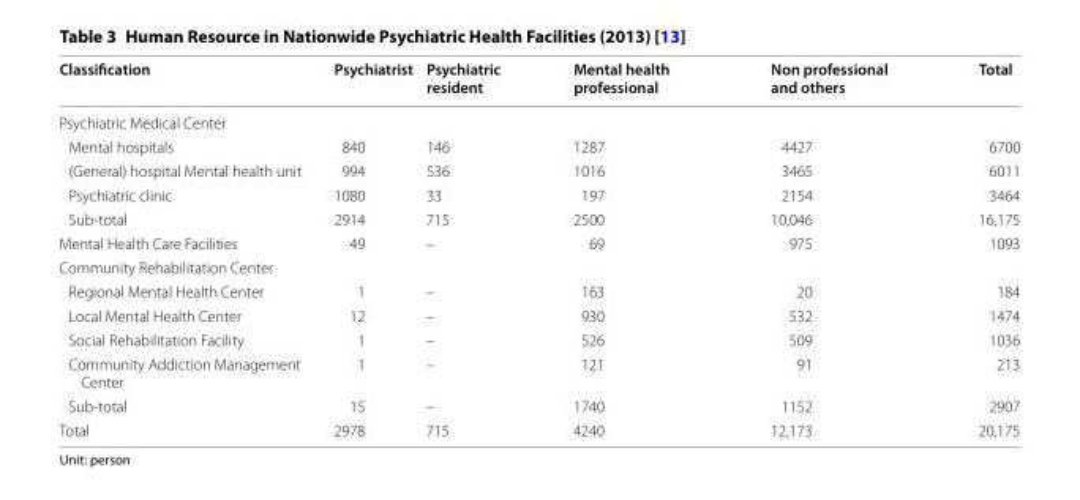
<table><thead><tr><td>Classification</td><td>Psychiatrist</td><td>Psychiatric resident</td><td>Mental health professional</td><td>Non professional and others</td><td>Total</td></tr></thead><tbody><tr><td colspan="6">Psychiatric Medical Center</td></tr><tr><td>Mental hospitals</td><td>840</td><td>146</td><td>1287</td><td>4427</td><td>6700</td></tr><tr><td>(General) hospital Mental health unit</td><td>994</td><td>536</td><td>1016</td><td>3465</td><td>6011</td></tr><tr><td>Psychiatric clinic</td><td>1080</td><td>33</td><td>197</td><td>2154</td><td>3464</td></tr><tr><td>Sub‑total</td><td>2914</td><td>715</td><td>2500</td><td>10,046</td><td>16,175</td></tr><tr><td>Mental Health Care Facilities</td><td>49</td><td>–</td><td>69</td><td>975</td><td>1093</td></tr><tr><td colspan="6">Community Rehabilitation Center</td></tr><tr><td>Regional Mental Health Center</td><td>1</td><td>–</td><td>163</td><td>20</td><td>184</td></tr><tr><td>Local Mental Health Center</td><td>12</td><td>–</td><td>930</td><td>532</td><td>1474</td></tr><tr><td>Social Rehabilitation Facility</td><td>1</td><td>–</td><td>526</td><td>509</td><td>1036</td></tr><tr><td>Community Addiction Management Center</td><td>1</td><td>–</td><td>121</td><td>91</td><td>213</td></tr><tr><td>Sub‑total</td><td>15</td><td>–</td><td>1740</td><td>1152</td><td>2907</td></tr><tr><td>Total</td><td>2978</td><td>715</td><td>4240</td><td>12,173</td><td>20,175</td></tr></tbody></table>